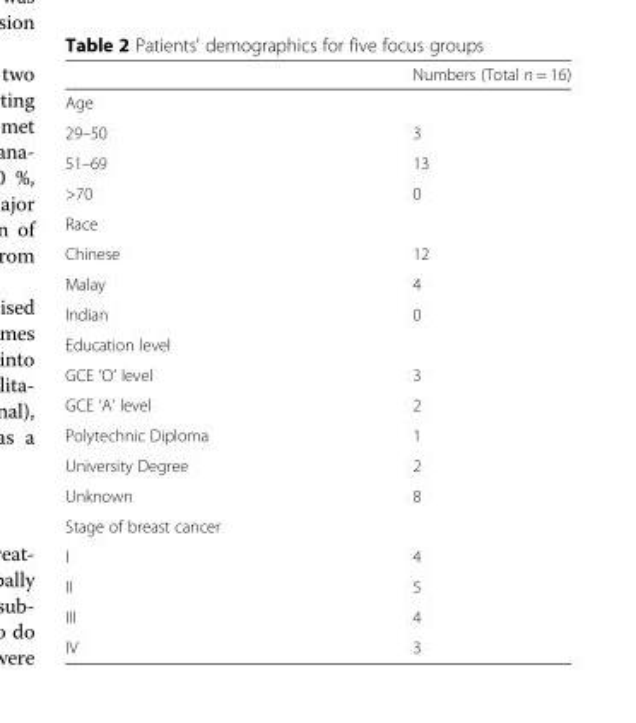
<table><thead><tr><td></td><td>Numbers (Total n = 16)</td></tr></thead><tbody><tr><td colspan="2">Age</td></tr><tr><td>29–50</td><td>3</td></tr><tr><td>51–69</td><td>13</td></tr><tr><td>&gt;70</td><td>0</td></tr><tr><td colspan="2">Race</td></tr><tr><td>Chinese</td><td>12</td></tr><tr><td>Malay</td><td>4</td></tr><tr><td>Indian</td><td>0</td></tr><tr><td colspan="2">Education level</td></tr><tr><td>GCE ‘O’ level</td><td>3</td></tr><tr><td>GCE ‘A’ level</td><td>2</td></tr><tr><td>Polytechnic Diploma</td><td>1</td></tr><tr><td>University Degree</td><td>2</td></tr><tr><td>Unknown</td><td>8</td></tr><tr><td colspan="2">Stage of breast cancer</td></tr><tr><td>I</td><td>4</td></tr><tr><td>II</td><td>5</td></tr><tr><td>III</td><td>4</td></tr><tr><td>IV</td><td>3</td></tr></tbody></table>